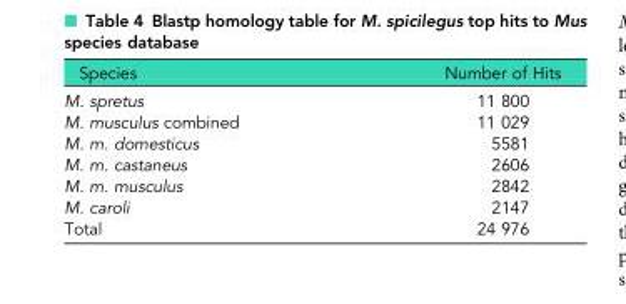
<table><thead><tr><td>Species</td><td>Number of Hits</td></tr></thead><tbody><tr><td>M. spretus</td><td>11 800</td></tr><tr><td>M. musculus combined</td><td>11 029</td></tr><tr><td>M. m. domesticus</td><td>5581</td></tr><tr><td>M. m. castaneus</td><td>2606</td></tr><tr><td>M. m. musculus</td><td>2842</td></tr><tr><td>M. caroli</td><td>2147</td></tr><tr><td>Total</td><td>24 976</td></tr></tbody></table>